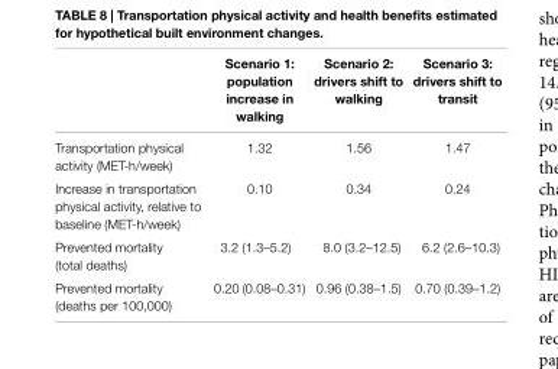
<table><thead><tr><td></td><td>scenario 1: population increase in walking</td><td>scenario 2: drivers shift to walking</td><td>scenario 3: drivers shift to transit</td></tr></thead><tbody><tr><td>Transportation physical activity (MET-h/week)</td><td>1.32</td><td>1.56</td><td>1.47</td></tr><tr><td>Increase in transportation physical activity, relative to baseline (MET-h/week)</td><td>0.10</td><td>0.34</td><td>0.24</td></tr><tr><td>Prevented mortality (total deaths)</td><td>3.2 (1.3–5.2)</td><td>8.0 (3.2–12.5)</td><td>6.2 (2.6–10.3)</td></tr><tr><td>Prevented mortality (deaths per 100,000)</td><td>0.20 (0.08–0.31)</td><td>0.96 (0.38–1.5)</td><td>0.70 (0.39–1.2)</td></tr></tbody></table>